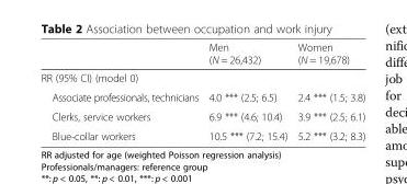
<table><thead><tr><td></td><td>Men (N = 26,432)</td><td>Women (N = 19,678)</td></tr></thead><tbody><tr><td colspan="3">RR (95% CI) (model 0)</td></tr><tr><td>Associate professionals, technicians</td><td>4.0 *** (2.5; 6.5)</td><td>2.4 *** (1.5; 3.8)</td></tr><tr><td>Clerks, service workers</td><td>6.9 *** (4.6; 10.4)</td><td>3.9 *** (2.5; 6.1)</td></tr><tr><td>Blue-collar workers</td><td>10.5 *** (7.2; 15.4)</td><td>5.2 *** (3.2; 8.3)</td></tr></tbody></table>